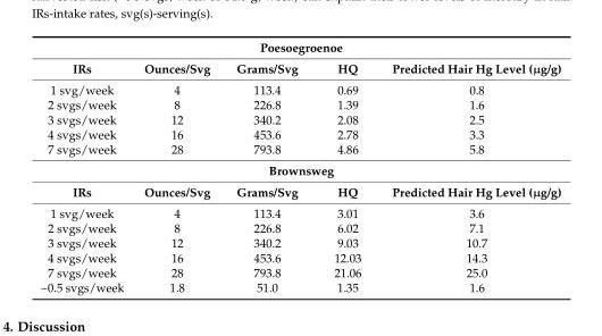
<table><tbody><tr><td colspan="5">Poesoegroenoe</td></tr><tr><td>IRs</td><td>Ounces/Svg</td><td>Grams/Svg</td><td>HQ</td><td>Predicted Hair Hg Level (µg/g)</td></tr><tr><td>1 svg/week</td><td>4</td><td>113.4</td><td>0.69</td><td>0.8</td></tr><tr><td>2 svgs/week</td><td>8</td><td>226.8</td><td>1.39</td><td>1.6</td></tr><tr><td>3 svgs/week</td><td>12</td><td>340.2</td><td>2.08</td><td>2.5</td></tr><tr><td>4 svgs/week</td><td>16</td><td>453.6</td><td>2.78</td><td>3.3</td></tr><tr><td>7 svgs/week</td><td>28</td><td>793.8</td><td>4.86</td><td>5.8</td></tr><tr><td colspan="5">Brownsweg</td></tr><tr><td>IRs</td><td>Ounces/Svg</td><td>Grams/Svg</td><td>HQ</td><td>Predicted Hair Hg Level (µg/g)</td></tr><tr><td>1 svg/week</td><td>4</td><td>113.4</td><td>3.01</td><td>3.6</td></tr><tr><td>2 svgs/week</td><td>8</td><td>226.8</td><td>6.02</td><td>7.1</td></tr><tr><td>3 svgs/week</td><td>12</td><td>340.2</td><td>9.03</td><td>10.7</td></tr><tr><td>4 svgs/week</td><td>16</td><td>453.6</td><td>12.03</td><td>14.3</td></tr><tr><td>7 svgs/week</td><td>28</td><td>793.8</td><td>21.06</td><td>25.0</td></tr><tr><td>~0.5 svgs/week</td><td>1.8</td><td>51.0</td><td>1.35</td><td>1.6</td></tr></tbody></table>